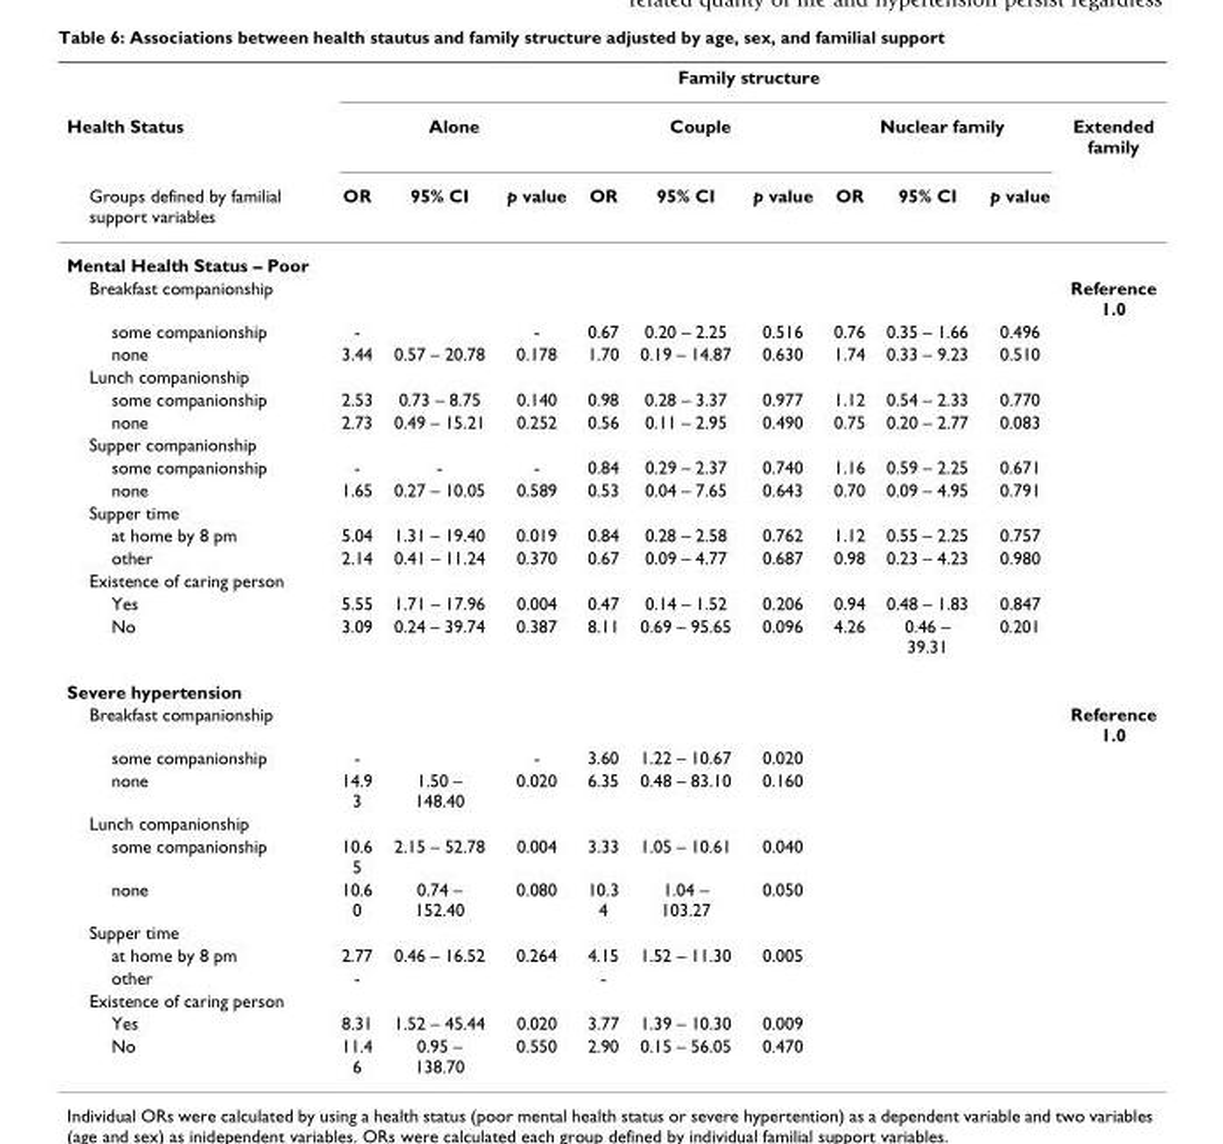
<table><thead><tr><td rowspan="3">Health Status Groups defined by familial support variables</td><td colspan="10">Family structure</td></tr><tr><td colspan="3">Alone</td><td colspan="3">Couple</td><td colspan="3">Nuclear family</td><td rowspan="2">Extended family</td></tr><tr><td>OR</td><td>95% CI</td><td>p value</td><td>OR</td><td>95% CI</td><td>p value</td><td>OR</td><td>95% CI</td><td>p value</td></tr></thead><tbody><tr><td colspan="11">Mental Health Status – Poor</td></tr><tr><td>Breakfast companionship</td><td></td><td></td><td></td><td></td><td></td><td></td><td></td><td></td><td></td><td>Reference 1.0</td></tr><tr><td>some companionship</td><td>-</td><td></td><td>-</td><td>0.67</td><td>0.20 – 2.25</td><td>0.516</td><td>0.76</td><td>0.35 – 1.66</td><td>0.496</td><td></td></tr><tr><td>none</td><td>3.44</td><td>0.57 – 20.78</td><td>0.178</td><td>1.70</td><td>0.19 – 14.87</td><td>0.630</td><td>1.74</td><td>0.33 – 9.23</td><td>0.510</td><td></td></tr><tr><td colspan="11">Lunch companionship</td></tr><tr><td>some companionship</td><td>2.53</td><td>0.73 – 8.75</td><td>0.140</td><td>0.98</td><td>0.28 – 3.37</td><td>0.977</td><td>1.12</td><td>0.54 – 2.33</td><td>0.770</td><td></td></tr><tr><td>none</td><td>2.73</td><td>0.49 – 15.21</td><td>0.252</td><td>0.56</td><td>0.11 – 2.95</td><td>0.490</td><td>0.75</td><td>0.20 – 2.77</td><td>0.083</td><td></td></tr><tr><td colspan="11">Supper companionship</td></tr><tr><td>some companionship</td><td>-</td><td>-</td><td>-</td><td>0.84</td><td>0.29 – 2.37</td><td>0.740</td><td>1.16</td><td>0.59 – 2.25</td><td>0.671</td><td></td></tr><tr><td>none</td><td>1.65</td><td>0.27 – 10.05</td><td>0.589</td><td>0.53</td><td>0.04 – 7.65</td><td>0.643</td><td>0.70</td><td>0.09 – 4.95</td><td>0.791</td><td></td></tr><tr><td colspan="11">Supper time</td></tr><tr><td>at home by 8 pm</td><td>5.04</td><td>1.31 – 19.40</td><td>0.019</td><td>0.84</td><td>0.28 – 2.58</td><td>0.762</td><td>1.12</td><td>0.55 – 2.25</td><td>0.757</td><td></td></tr><tr><td>other</td><td>2.14</td><td>0.41 – 11.24</td><td>0.370</td><td>0.67</td><td>0.09 – 4.77</td><td>0.687</td><td>0.98</td><td>0.23 – 4.23</td><td>0.980</td><td></td></tr><tr><td colspan="11">Existence of caring person</td></tr><tr><td>Yes</td><td>5.55</td><td>1.71 – 17.96</td><td>0.004</td><td>0.47</td><td>0.14 – 1.52</td><td>0.206</td><td>0.94</td><td>0.48 – 1.83</td><td>0.847</td><td></td></tr><tr><td>No</td><td>3.09</td><td>0.24 – 39.74</td><td>0.387</td><td>8.11</td><td>0.69 – 95.65</td><td>0.096</td><td>4.26</td><td>0.46 – 39.31</td><td>0.201</td><td></td></tr><tr><td colspan="11">Severe hypertension</td></tr><tr><td>Breakfast companionship</td><td></td><td></td><td></td><td></td><td></td><td></td><td></td><td></td><td></td><td>Reference 1.0</td></tr><tr><td>some companionship</td><td>-</td><td></td><td>-</td><td>3.60</td><td>1.22 – 10.67</td><td>0.020</td><td></td><td></td><td></td><td></td></tr><tr><td>none</td><td>14.9 3</td><td>1.50 – 148.40</td><td>0.020</td><td>6.35</td><td>0.48 – 83.10</td><td>0.160</td><td></td><td></td><td></td><td></td></tr><tr><td colspan="11">Lunch companionship</td></tr><tr><td>some companionship</td><td>10.6 5</td><td>2.15 – 52.78</td><td>0.004</td><td>3.33</td><td>1.05 – 10.61</td><td>0.040</td><td></td><td></td><td></td><td></td></tr><tr><td>none</td><td>10.6 0</td><td>0.74 – 152.40</td><td>0.080</td><td>10.3 4</td><td>1.04 – 103.27</td><td>0.050</td><td></td><td></td><td></td><td></td></tr><tr><td colspan="11">Supper time</td></tr><tr><td>at home by 8 pm</td><td>2.77</td><td>0.46 – 16.52</td><td>0.264</td><td>4.15</td><td>1.52 – 11.30</td><td>0.005</td><td></td><td></td><td></td><td></td></tr><tr><td>other</td><td>-</td><td></td><td></td><td>-</td><td></td><td></td><td></td><td></td><td></td><td></td></tr><tr><td colspan="11">Existence of caring person</td></tr><tr><td>Yes</td><td>8.31</td><td>1.52 – 45.44</td><td>0.020</td><td>3.77</td><td>1.39 – 10.30</td><td>0.009</td><td></td><td></td><td></td><td></td></tr><tr><td>No</td><td>11.4 6</td><td>0.95 – 138.70</td><td>0.550</td><td>2.90</td><td>0.15 – 56.05</td><td>0.470</td><td></td><td></td><td></td><td></td></tr></tbody></table>